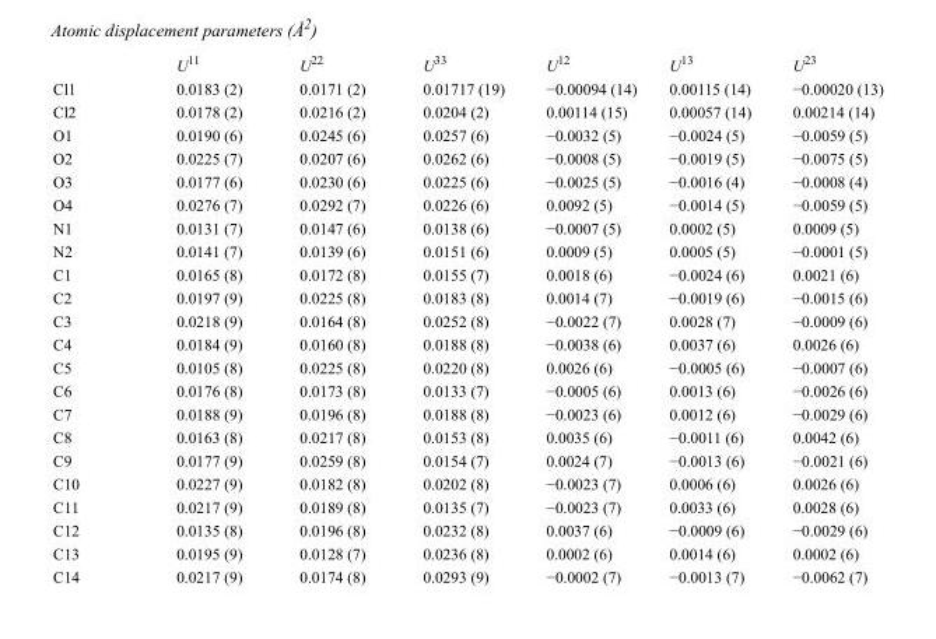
<table><thead><tr><td></td><td>U<sup>11</sup></td><td>U<sup>22</sup></td><td>U<sup>33</sup></td><td>U<sup>12</sup></td><td>U<sup>13</sup></td><td>U<sup>23</sup></td></tr></thead><tbody><tr><td>Cl1</td><td>0.0183 (2)</td><td>0.0171 (2)</td><td>0.01717 (19)</td><td>−0.00094 (14)</td><td>0.00115 (14)</td><td>−0.00020 (13)</td></tr><tr><td>Cl2</td><td>0.0178 (2)</td><td>0.0216 (2)</td><td>0.0204 (2)</td><td>0.00114 (15)</td><td>0.00057 (14)</td><td>0.00214 (14)</td></tr><tr><td>O1</td><td>0.0190 (6)</td><td>0.0245 (6)</td><td>0.0257 (6)</td><td>−0.0032 (5)</td><td>−0.0024 (5)</td><td>−0.0059 (5)</td></tr><tr><td>O2</td><td>0.0225 (7)</td><td>0.0207 (6)</td><td>0.0262 (6)</td><td>−0.0008 (5)</td><td>−0.0019 (5)</td><td>−0.0075 (5)</td></tr><tr><td>O3</td><td>0.0177 (6)</td><td>0.0230 (6)</td><td>0.0225 (6)</td><td>−0.0025 (5)</td><td>−0.0016 (4)</td><td>−0.0008 (4)</td></tr><tr><td>O4</td><td>0.0276 (7)</td><td>0.0292 (7)</td><td>0.0226 (6)</td><td>0.0092 (5)</td><td>−0.0014 (5)</td><td>−0.0059 (5)</td></tr><tr><td>N1</td><td>0.0131 (7)</td><td>0.0147 (6)</td><td>0.0138 (6)</td><td>−0.0007 (5)</td><td>0.0002 (5)</td><td>0.0009 (5)</td></tr><tr><td>N2</td><td>0.0141 (7)</td><td>0.0139 (6)</td><td>0.0151 (6)</td><td>0.0009 (5)</td><td>0.0005 (5)</td><td>−0.0001 (5)</td></tr><tr><td>C1</td><td>0.0165 (8)</td><td>0.0172 (8)</td><td>0.0155 (7)</td><td>0.0018 (6)</td><td>−0.0024 (6)</td><td>0.0021 (6)</td></tr><tr><td>C2</td><td>0.0197 (9)</td><td>0.0225 (8)</td><td>0.0183 (8)</td><td>0.0014 (7)</td><td>−0.0019 (6)</td><td>−0.0015 (6)</td></tr><tr><td>C3</td><td>0.0218 (9)</td><td>0.0164 (8)</td><td>0.0252 (8)</td><td>−0.0022 (7)</td><td>0.0028 (7)</td><td>−0.0009 (6)</td></tr><tr><td>C4</td><td>0.0184 (9)</td><td>0.0160 (8)</td><td>0.0188 (8)</td><td>−0.0038 (6)</td><td>0.0037 (6)</td><td>0.0026 (6)</td></tr><tr><td>C5</td><td>0.0105 (8)</td><td>0.0225 (8)</td><td>0.0220 (8)</td><td>0.0026 (6)</td><td>−0.0005 (6)</td><td>−0.0007 (6)</td></tr><tr><td>C6</td><td>0.0176 (8)</td><td>0.0173 (8)</td><td>0.0133 (7)</td><td>−0.0005 (6)</td><td>0.0013 (6)</td><td>−0.0026 (6)</td></tr><tr><td>C7</td><td>0.0188 (9)</td><td>0.0196 (8)</td><td>0.0188 (8)</td><td>−0.0023 (6)</td><td>0.0012 (6)</td><td>−0.0029 (6)</td></tr><tr><td>C8</td><td>0.0163 (8)</td><td>0.0217 (8)</td><td>0.0153 (8)</td><td>0.0035 (6)</td><td>−0.0011 (6)</td><td>0.0042 (6)</td></tr><tr><td>C9</td><td>0.0177 (9)</td><td>0.0259 (8)</td><td>0.0154 (7)</td><td>0.0024 (7)</td><td>−0.0013 (6)</td><td>−0.0021 (6)</td></tr><tr><td>C10</td><td>0.0227 (9)</td><td>0.0182 (8)</td><td>0.0202 (8)</td><td>−0.0023 (7)</td><td>0.0006 (6)</td><td>0.0026 (6)</td></tr><tr><td>C11</td><td>0.0217 (9)</td><td>0.0189 (8)</td><td>0.0135 (7)</td><td>−0.0023 (7)</td><td>0.0033 (6)</td><td>0.0028 (6)</td></tr><tr><td>C12</td><td>0.0135 (8)</td><td>0.0196 (8)</td><td>0.0232 (8)</td><td>0.0037 (6)</td><td>−0.0009 (6)</td><td>−0.0029 (6)</td></tr><tr><td>C13</td><td>0.0195 (9)</td><td>0.0128 (7)</td><td>0.0236 (8)</td><td>0.0002 (6)</td><td>0.0014 (6)</td><td>0.0002 (6)</td></tr><tr><td>C14</td><td>0.0217 (9)</td><td>0.0174 (8)</td><td>0.0293 (9)</td><td>−0.0002 (7)</td><td>−0.0013 (7)</td><td>−0.0062 (7)</td></tr></tbody></table>